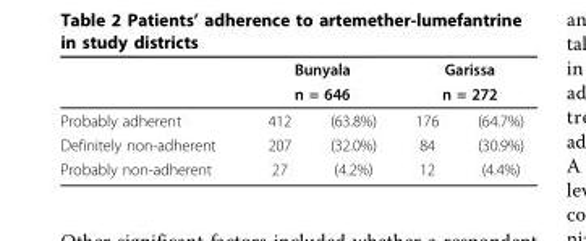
<table><thead><tr><td rowspan="3">Probably adherent</td><td rowspan="2" colspan="2">Bunyala n = 646</td><td rowspan="2" colspan="2">Garissa n = 272</td></tr><tr></tr><tr><td>412</td><td>(63.8%)</td><td>176</td><td>(64.7%)</td></tr></thead><tbody><tr><td>Definitely non-adherent</td><td>207</td><td>(32.0%)</td><td>84</td><td>(30.9%)</td></tr><tr><td>Probably non-adherent</td><td>27</td><td>(4.2%)</td><td>12</td><td>(4.4%)</td></tr></tbody></table>